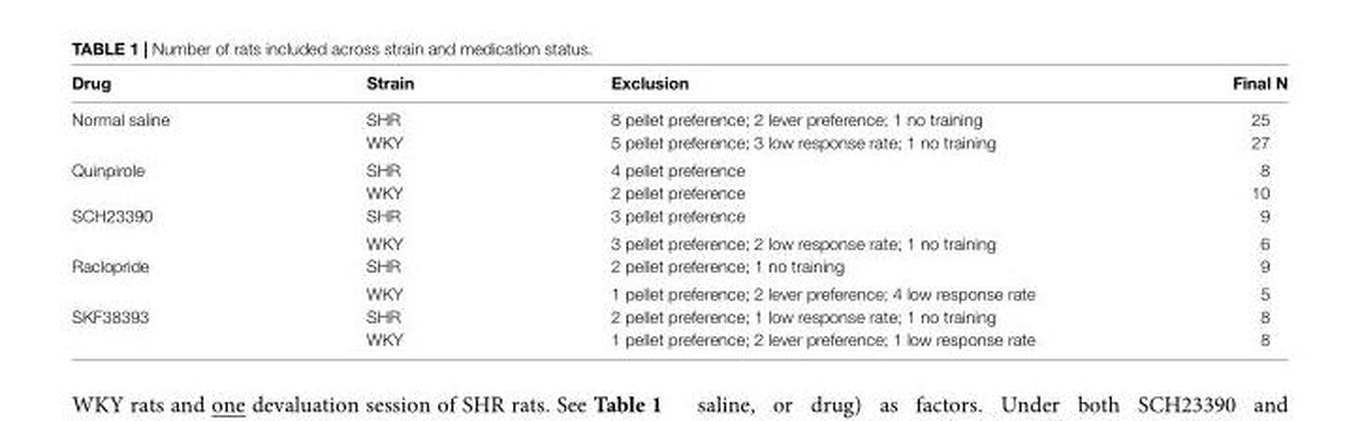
<table><thead><tr><td>Drug</td><td>Strain</td><td>Exclusion</td><td>Final N</td></tr></thead><tbody><tr><td rowspan="2">Normal saline</td><td>SHR</td><td>8 pellet preference; 2 lever preference; 1 no training</td><td>25</td></tr><tr><td>WKY</td><td>5 pellet preference; 3 low response rate; 1 no training</td><td>27</td></tr><tr><td rowspan="2">Quinpirole</td><td>SHR</td><td>4 pellet preference</td><td>8</td></tr><tr><td>WKY</td><td>2 pellet preference</td><td>10</td></tr><tr><td rowspan="2">SCH23390</td><td>SHR</td><td>3 pellet preference</td><td>9</td></tr><tr><td>WKY</td><td>3 pellet preference; 2 low response rate; 1 no training</td><td>6</td></tr><tr><td rowspan="2">Raclopride</td><td>SHR</td><td>2 pellet preference; 1 no training</td><td>9</td></tr><tr><td>WKY</td><td>1 pellet preference; 2 lever preference; 4 low response rate</td><td>5</td></tr><tr><td rowspan="2">SKF38393</td><td>SHR</td><td>2 pellet preference; 1 low response rate; 1 no training</td><td>8</td></tr><tr><td>WKY</td><td>1 pellet preference; 2 lever preference; 1 low response rate</td><td>8</td></tr></tbody></table>